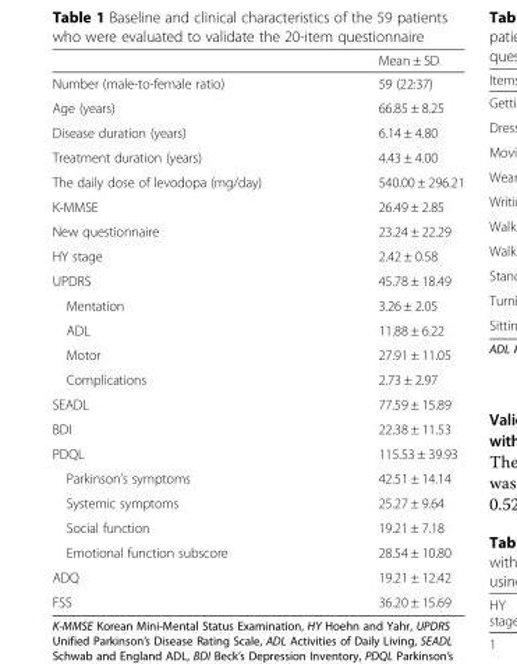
<table><thead><tr><td></td><td>Mean ± SD</td></tr></thead><tbody><tr><td>Number (male-to-female ratio)</td><td>59 (22:37)</td></tr><tr><td>Age (years)</td><td>66.85 ± 8.25</td></tr><tr><td>Disease duration (years)</td><td>6.14 ± 4.80</td></tr><tr><td>Treatment duration (years)</td><td>4.43 ± 4.00</td></tr><tr><td>The daily dose of levodopa (mg/day)</td><td>540.00 ± 296.21</td></tr><tr><td>K-MMSE</td><td>26.49 ± 2.85</td></tr><tr><td>New questionnaire</td><td>23.24 ± 22.29</td></tr><tr><td>HY stage</td><td>2.42 ± 0.58</td></tr><tr><td>UPDRS</td><td>45.78 ± 18.49</td></tr><tr><td>Mentation</td><td>3.26 ± 2.05</td></tr><tr><td>ADL</td><td>11.88 ± 6.22</td></tr><tr><td>Motor</td><td>27.91 ± 11.05</td></tr><tr><td>Complications</td><td>2.73 ± 2.97</td></tr><tr><td>SEADL</td><td>77.59 ± 15.89</td></tr><tr><td>BDI</td><td>22.38 ± 11.53</td></tr><tr><td>PDQL</td><td>115.53 ± 39.93</td></tr><tr><td>Parkinson’s symptoms</td><td>42.51 ± 14.14</td></tr><tr><td>Systemic symptoms</td><td>25.27 ± 9.64</td></tr><tr><td>Social function</td><td>19.21 ± 7.18</td></tr><tr><td>Emotional function subscore</td><td>28.54 ± 10.80</td></tr><tr><td>ADQ</td><td>19.21 ± 12.42</td></tr><tr><td>FSS</td><td>36.20 ± 15.69</td></tr></tbody></table>